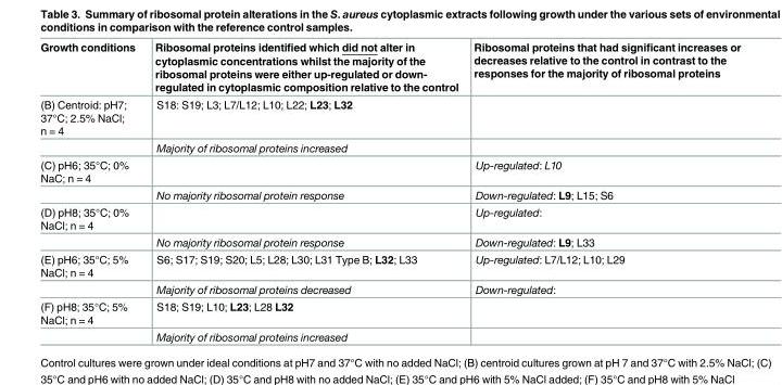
<table><thead><tr><td>Growth conditions</td><td>Ribosomal proteins identified which did not alter in cytoplasmic concentrations whilst the majority of the ribosomal proteins were either up-regulated or down- regulated in cytoplasmic composition relative to the control</td><td>Ribosomal proteins that had significant increases or decreases relative to the control in contrast to the responses for the majority of ribosomal proteins</td></tr></thead><tbody><tr><td rowspan="2">(B) Centroid: pH7; 37°C; 2.5% NaCl; n = 4</td><td>S18: S19; L3; L7/L12; L10; L22; L23; L32</td><td></td></tr><tr><td>Majority of ribosomal proteins increased</td><td></td></tr><tr><td rowspan="2">(C) pH6; 35°C; 0% NaC; n = 4</td><td></td><td>Up-regulated: L10</td></tr><tr><td>No majority ribosomal protein response</td><td>Down-regulated: L9; L15; S6</td></tr><tr><td rowspan="2">(D) pH8; 35°C; 0% NaCl; n = 4</td><td></td><td>Up-regulated:</td></tr><tr><td>No majority ribosomal protein response</td><td>Down-regulated: L9; L33</td></tr><tr><td rowspan="2">(E) pH6; 35°C; 5% NaCl; n = 4</td><td>S6; S17; S19; S20; L5; L28; L30; L31 Type B; L32; L33</td><td>Up-regulated: L7/L12; L10; L29</td></tr><tr><td>Majority of ribosomal proteins decreased</td><td>Down-regulated:</td></tr><tr><td rowspan="2">(F) pH8; 35°C; 5% NaCl; n = 4</td><td>S18; S19; L10; L23; L28 L32</td><td></td></tr><tr><td>Majority of ribosomal proteins increased</td><td></td></tr></tbody></table>